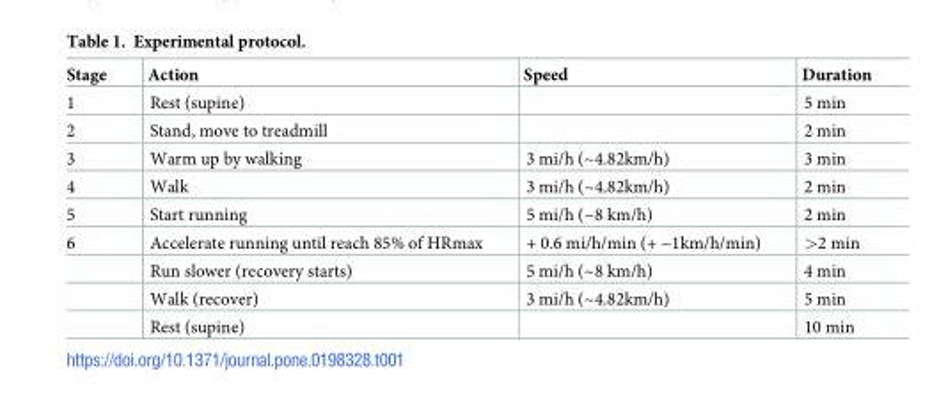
<table><thead><tr><td>Stage</td><td>Action</td><td>Speed</td><td>Duration</td></tr></thead><tbody><tr><td>1</td><td>Rest (supine)</td><td></td><td>5 min</td></tr><tr><td>2</td><td>Stand, move to treadmill</td><td></td><td>2 min</td></tr><tr><td>3</td><td>Warm up by walking</td><td>3 mi/h (~4.82km/h)</td><td>3 min</td></tr><tr><td>4</td><td>Walk</td><td>3 mi/h (~4.82km/h)</td><td>2 min</td></tr><tr><td>5</td><td>Start running</td><td>5 mi/h (~8 km/h)</td><td>2 min</td></tr><tr><td rowspan="4">6</td><td>Accelerate running until reach 85% of HRmax</td><td>+ 0.6 mi/h/min (+ ~1km/h/min)</td><td>&gt;2 min</td></tr><tr><td>Run slower (recovery starts)</td><td>5 mi/h (~8 km/h)</td><td>4 min</td></tr><tr><td>Walk (recover)</td><td>3 mi/h (~4.82km/h)</td><td>5 min</td></tr><tr><td>Rest (supine)</td><td></td><td>10 min</td></tr></tbody></table>